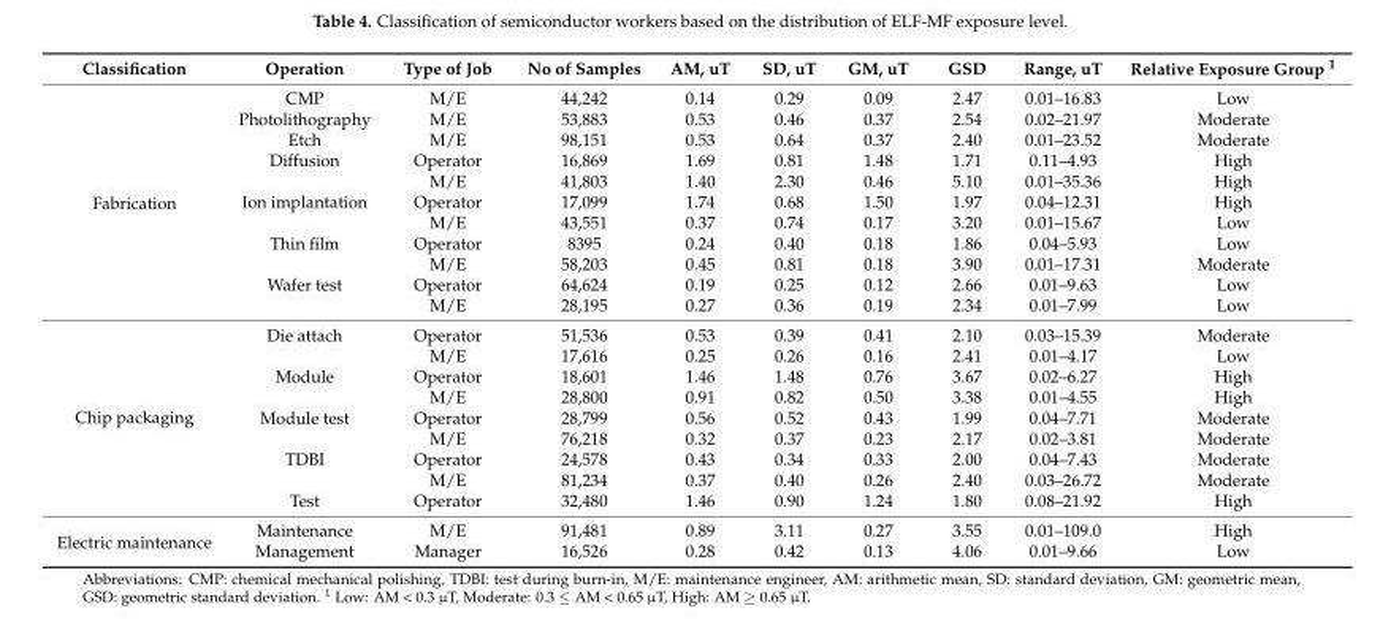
<table><thead><tr><td>Classification</td><td>Operation</td><td>Type of Job</td><td>No of Samples</td><td>AM, uT</td><td>SD, uT</td><td>GM, uT</td><td>GSD</td><td>Range, uT</td><td>Relative Exposure Group <sup>1</sup></td></tr></thead><tbody><tr><td rowspan="11">Fabrication</td><td>CMP</td><td>M/E</td><td>44,242</td><td>0.14</td><td>0.29</td><td>0.09</td><td>2.47</td><td>0.01–16.83</td><td>Low</td></tr><tr><td>Photolithography</td><td>M/E</td><td>53,883</td><td>0.53</td><td>0.46</td><td>0.37</td><td>2.54</td><td>0.02–21.97</td><td>Moderate</td></tr><tr><td>Etch</td><td>M/E</td><td>98,151</td><td>0.53</td><td>0.64</td><td>0.37</td><td>2.40</td><td>0.01–23.52</td><td>Moderate</td></tr><tr><td>Diffusion</td><td>Operator</td><td>16,869</td><td>1.69</td><td>0.81</td><td>1.48</td><td>1.71</td><td>0.11–4.93</td><td>High</td></tr><tr><td></td><td>M/E</td><td>41,803</td><td>1.40</td><td>2.30</td><td>0.46</td><td>5.10</td><td>0.01–35.36</td><td>High</td></tr><tr><td>Ion implantation</td><td>Operator</td><td>17,099</td><td>1.74</td><td>0.68</td><td>1.50</td><td>1.97</td><td>0.04–12.31</td><td>High</td></tr><tr><td></td><td>M/E</td><td>43,551</td><td>0.37</td><td>0.74</td><td>0.17</td><td>3.20</td><td>0.01–15.67</td><td>Low</td></tr><tr><td>Thin film</td><td>Operator</td><td>8395</td><td>0.24</td><td>0.40</td><td>0.18</td><td>1.86</td><td>0.04–5.93</td><td>Low</td></tr><tr><td></td><td>M/E</td><td>58,203</td><td>0.45</td><td>0.81</td><td>0.18</td><td>3.90</td><td>0.01–17.31</td><td>Moderate</td></tr><tr><td>Wafer test</td><td>Operator</td><td>64,624</td><td>0.19</td><td>0.25</td><td>0.12</td><td>2.66</td><td>0.01–9.63</td><td>Low</td></tr><tr><td></td><td>M/E</td><td>28,195</td><td>0.27</td><td>0.36</td><td>0.19</td><td>2.34</td><td>0.01–7.99</td><td>Low</td></tr><tr><td rowspan="9">Chip packaging</td><td>Die attach</td><td>Operator</td><td>51,536</td><td>0.53</td><td>0.39</td><td>0.41</td><td>2.10</td><td>0.03–15.39</td><td>Moderate</td></tr><tr><td></td><td>M/E</td><td>17,616</td><td>0.25</td><td>0.26</td><td>0.16</td><td>2.41</td><td>0.01–4.17</td><td>Low</td></tr><tr><td>Module</td><td>Operator</td><td>18,601</td><td>1.46</td><td>1.48</td><td>0.76</td><td>3.67</td><td>0.02–6.27</td><td>High</td></tr><tr><td></td><td>M/E</td><td>28,800</td><td>0.91</td><td>0.82</td><td>0.50</td><td>3.38</td><td>0.01–4.55</td><td>High</td></tr><tr><td>Module test</td><td>Operator</td><td>28,799</td><td>0.56</td><td>0.52</td><td>0.43</td><td>1.99</td><td>0.04–7.71</td><td>Moderate</td></tr><tr><td></td><td>M/E</td><td>76,218</td><td>0.32</td><td>0.37</td><td>0.23</td><td>2.17</td><td>0.02–3.81</td><td>Moderate</td></tr><tr><td>TDBI</td><td>Operator</td><td>24,578</td><td>0.43</td><td>0.34</td><td>0.33</td><td>2.00</td><td>0.04–7.43</td><td>Moderate</td></tr><tr><td></td><td>M/E</td><td>81,234</td><td>0.37</td><td>0.40</td><td>0.26</td><td>2.40</td><td>0.03–26.72</td><td>Moderate</td></tr><tr><td>Test</td><td>Operator</td><td>32,480</td><td>1.46</td><td>0.90</td><td>1.24</td><td>1.80</td><td>0.08–21.92</td><td>High</td></tr><tr><td rowspan="2">Electric maintenance</td><td>Maintenance</td><td>M/E</td><td>91,481</td><td>0.89</td><td>3.11</td><td>0.27</td><td>3.55</td><td>0.01–109.0</td><td>High</td></tr><tr><td>Management</td><td>Manager</td><td>16,526</td><td>0.28</td><td>0.42</td><td>0.13</td><td>4.06</td><td>0.01–9.66</td><td>Low</td></tr></tbody></table>